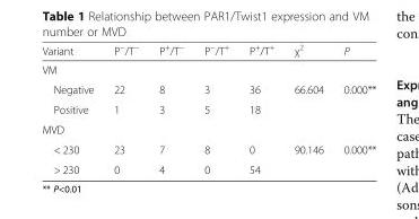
<table><thead><tr><td>Variant</td><td>P<sup>−</sup>/T<sup>−</sup></td><td>P<sup>+</sup>/T<sup>−</sup></td><td>P<sup>−</sup>/T<sup>+</sup></td><td>P<sup>+</sup>/T<sup>+</sup></td><td>χ<sup>2</sup></td><td>P</td></tr></thead><tbody><tr><td colspan="7">VM</td></tr><tr><td>Negative</td><td>22</td><td>8</td><td>3</td><td>36</td><td>66.604</td><td>0.000**</td></tr><tr><td>Positive</td><td>1</td><td>3</td><td>5</td><td>18</td><td></td><td></td></tr><tr><td colspan="7">MVD</td></tr><tr><td>&lt; 230</td><td>23</td><td>7</td><td>8</td><td>0</td><td>90.146</td><td>0.000**</td></tr><tr><td>&gt; 230</td><td>0</td><td>4</td><td>0</td><td>54</td><td></td><td></td></tr></tbody></table>